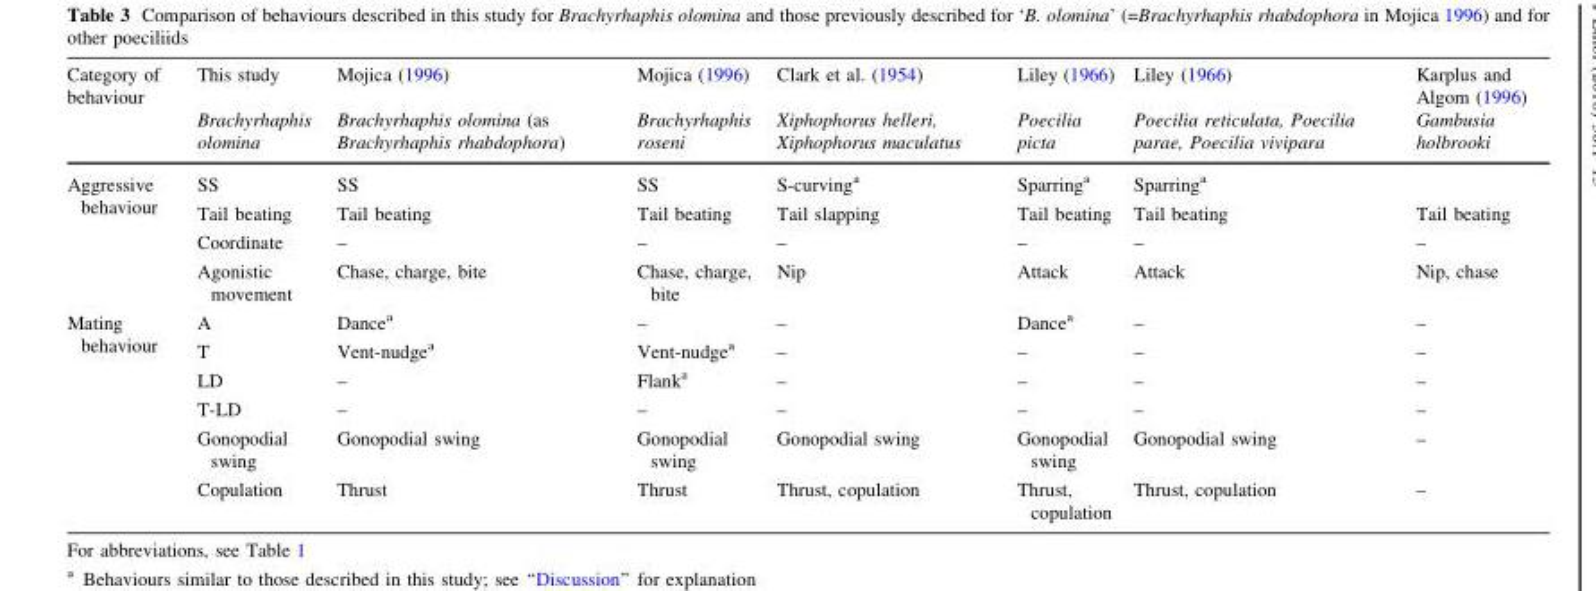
<table><thead><tr><td rowspan="2">Category of behaviour</td><td rowspan="2">This study Brachyrhaphis olomina</td><td rowspan="2">Mojica (1996) Brachyrhaphis olomina (as Brachyrhaphis rhabdophora)</td><td rowspan="2">Mojica (1996) Brachyrhaphis roseni</td><td rowspan="2">Clark et al. (1954) Xiphophorus helleri, Xiphophorus maculatus</td><td rowspan="2">Liley (1966) Poecilia picta</td><td rowspan="2">Liley (1966) Poecilia reticulata, Poecilia parae, Poecilia vivipara</td><td rowspan="2">Karplus and Algom (1996) Gambusia holbrooki</td></tr><tr></tr></thead><tbody><tr><td rowspan="4">Aggressive behaviour</td><td>SS</td><td>SS</td><td>SS</td><td>S-curving<sup>a</sup></td><td>Sparring<sup>a</sup></td><td>Sparring<sup>a</sup></td><td></td></tr><tr><td>Tail beating</td><td>Tail beating</td><td>Tail beating</td><td>Tail slapping</td><td>Tail beating</td><td>Tail beating</td><td>Tail beating</td></tr><tr><td>Coordinate</td><td>–</td><td>–</td><td>–</td><td>–</td><td>–</td><td>–</td></tr><tr><td>Agonistic movement</td><td>Chase, charge, bite</td><td>Chase, charge, bite</td><td>Nip</td><td>Attack</td><td>Attack</td><td>Nip, chase</td></tr><tr><td rowspan="6">Mating behaviour</td><td>A</td><td>Dance<sup>a</sup></td><td>–</td><td>–</td><td>Dance<sup>a</sup></td><td>–</td><td>–</td></tr><tr><td>T</td><td>Vent-nudge<sup>a</sup></td><td>Vent-nudge<sup>a</sup></td><td>–</td><td>–</td><td>–</td><td>–</td></tr><tr><td>LD</td><td>–</td><td>Flank<sup>a</sup></td><td>–</td><td>–</td><td>–</td><td>–</td></tr><tr><td>T-LD</td><td>–</td><td>–</td><td>–</td><td>–</td><td>–</td><td>–</td></tr><tr><td>Gonopodial swing</td><td>Gonopodial swing</td><td>Gonopodial swing</td><td>Gonopodial swing</td><td>Gonopodial swing</td><td>Gonopodial swing</td><td>–</td></tr><tr><td>Copulation</td><td>Thrust</td><td>Thrust</td><td>Thrust, copulation</td><td>Thrust, copulation</td><td>Thrust, copulation</td><td>–</td></tr></tbody></table>